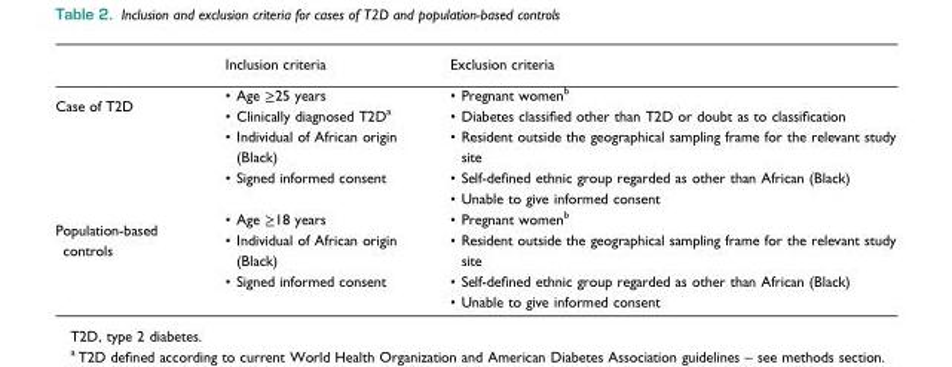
<table><thead><tr><td></td><td>Inclusion criteria</td><td>Exclusion criteria</td></tr></thead><tbody><tr><td>Case of T2D</td><td>• Age ≥25 years • Clinically diagnosed T2Da • Individual of African origin (Black) • Signed informed consent</td><td>• Pregnant womenb • Diabetes classified other than T2D or doubt as to classification • Resident outside the geographical sampling frame for the relevant study site • Self-defined ethnic group regarded as other than African (Black) • Unable to give informed consent</td></tr><tr><td>Population-based controls</td><td>• Age ≥18 years • Individual of African origin (Black) • Signed informed consent</td><td>• Pregnant womenb • Resident outside the geographical sampling frame for the relevant study site • Self-defined ethnic group regarded as other than African (Black) • Unable to give informed consent</td></tr></tbody></table>